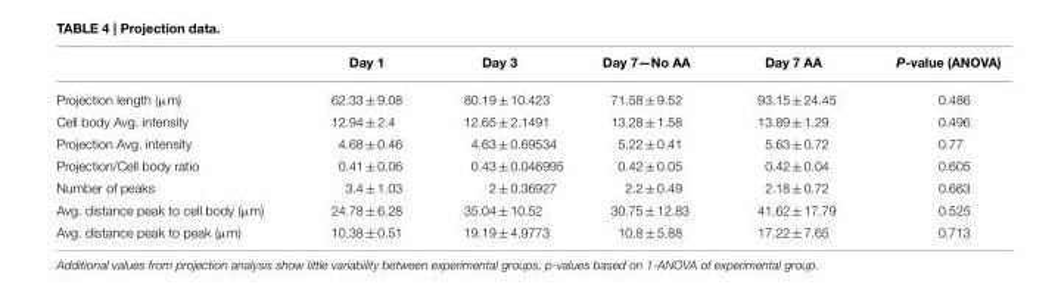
<table><thead><tr><td></td><td>Day 1</td><td>Day 3</td><td>Day 7—No AA</td><td>Day 7 AA</td><td>P-value (ANOVA)</td></tr></thead><tbody><tr><td>Projection length (µm)</td><td>62.33 ± 9.08</td><td>80.19 ± 10.423</td><td>71.58 ± 9.52</td><td>93.15 ± 24.45</td><td>0.486</td></tr><tr><td>Cell body Avg. intensity</td><td>12.94 ± 2.4</td><td>12.65 ± 2.1491</td><td>13.28 ± 1.58</td><td>13.89 ± 1.29</td><td>0.496</td></tr><tr><td>Projection Avg. intensity</td><td>4.68 ± 0.46</td><td>4.63 ± 0.69534</td><td>5.22 ± 0.41</td><td>5.63 ± 0.72</td><td>0.77</td></tr><tr><td>Projection/Cell body ratio</td><td>0.41 ± 0.06</td><td>0.43 ± 0.046995</td><td>0.42 ± 0.05</td><td>0.42 ± 0.04</td><td>0.605</td></tr><tr><td>Number of peaks</td><td>3.4 ± 1.03</td><td>2 ± 0.36927</td><td>2.2 ± 0.49</td><td>2.18 ± 0.72</td><td>0.663</td></tr><tr><td>Avg. distance peak to cell body (µm)</td><td>24.78 ± 6.28</td><td>35.04 ± 10.52</td><td>30.75 ± 12.83</td><td>41.62 ± 17.79</td><td>0.525</td></tr><tr><td>Avg. distance peak to peak (µm)</td><td>10.38 ± 0.51</td><td>19.19 ± 4.9773</td><td>10.8 ± 5.88</td><td>17.22 ± 7.65</td><td>0.713</td></tr></tbody></table>